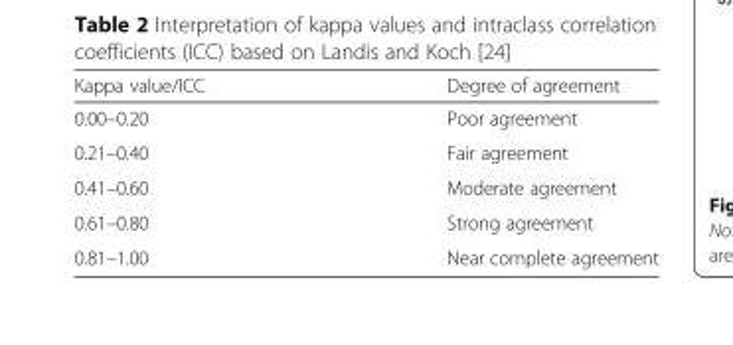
<table><thead><tr><td>Kappa value/ICC</td><td>Degree of agreement</td></tr></thead><tbody><tr><td>0.00–0.20</td><td>Poor agreement</td></tr><tr><td>0.21–0.40</td><td>Fair agreement</td></tr><tr><td>0.41–0.60</td><td>Moderate agreement</td></tr><tr><td>0.61–0.80</td><td>Strong agreement</td></tr><tr><td>0.81–1.00</td><td>Near complete agreement</td></tr></tbody></table>